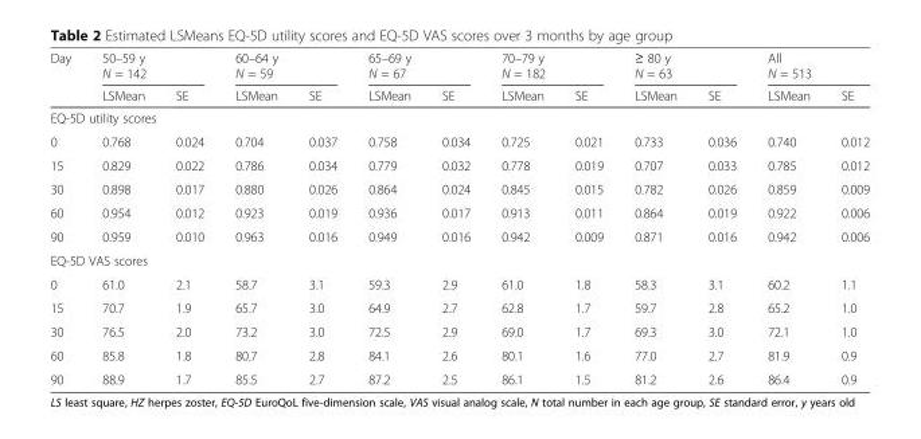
<table><thead><tr><td rowspan="2">Day</td><td colspan="2">50–59 y N = 142</td><td colspan="2">60–64 y N = 59</td><td colspan="2">65–69 y N = 67</td><td colspan="2">70–79 y N = 182</td><td colspan="2">≥ 80 y N = 63</td><td colspan="2">All N = 513</td></tr><tr><td>LSMean</td><td>SE</td><td>LSMean</td><td>SE</td><td>LSMean</td><td>SE</td><td>LSMean</td><td>SE</td><td>LSMean</td><td>SE</td><td>LSMean</td><td>SE</td></tr></thead><tbody><tr><td colspan="13">EQ-5D utility scores</td></tr><tr><td>0</td><td>0.768</td><td>0.024</td><td>0.704</td><td>0.037</td><td>0.758</td><td>0.034</td><td>0.725</td><td>0.021</td><td>0.733</td><td>0.036</td><td>0.740</td><td>0.012</td></tr><tr><td>15</td><td>0.829</td><td>0.022</td><td>0.786</td><td>0.034</td><td>0.779</td><td>0.032</td><td>0.778</td><td>0.019</td><td>0.707</td><td>0.033</td><td>0.785</td><td>0.012</td></tr><tr><td>30</td><td>0.898</td><td>0.017</td><td>0.880</td><td>0.026</td><td>0.864</td><td>0.024</td><td>0.845</td><td>0.015</td><td>0.782</td><td>0.026</td><td>0.859</td><td>0.009</td></tr><tr><td>60</td><td>0.954</td><td>0.012</td><td>0.923</td><td>0.019</td><td>0.936</td><td>0.017</td><td>0.913</td><td>0.011</td><td>0.864</td><td>0.019</td><td>0.922</td><td>0.006</td></tr><tr><td>90</td><td>0.959</td><td>0.010</td><td>0.963</td><td>0.016</td><td>0.949</td><td>0.016</td><td>0.942</td><td>0.009</td><td>0.871</td><td>0.016</td><td>0.942</td><td>0.006</td></tr><tr><td colspan="13">EQ-5D VAS scores</td></tr><tr><td>0</td><td>61.0</td><td>2.1</td><td>58.7</td><td>3.1</td><td>59.3</td><td>2.9</td><td>61.0</td><td>1.8</td><td>58.3</td><td>3.1</td><td>60.2</td><td>1.1</td></tr><tr><td>15</td><td>70.7</td><td>1.9</td><td>65.7</td><td>3.0</td><td>64.9</td><td>2.7</td><td>62.8</td><td>1.7</td><td>59.7</td><td>2.8</td><td>65.2</td><td>1.0</td></tr><tr><td>30</td><td>76.5</td><td>2.0</td><td>73.2</td><td>3.0</td><td>72.5</td><td>2.9</td><td>69.0</td><td>1.7</td><td>69.3</td><td>3.0</td><td>72.1</td><td>1.0</td></tr><tr><td>60</td><td>85.8</td><td>1.8</td><td>80.7</td><td>2.8</td><td>84.1</td><td>2.6</td><td>80.1</td><td>1.6</td><td>77.0</td><td>2.7</td><td>81.9</td><td>0.9</td></tr><tr><td>90</td><td>88.9</td><td>1.7</td><td>85.5</td><td>2.7</td><td>87.2</td><td>2.5</td><td>86.1</td><td>1.5</td><td>81.2</td><td>2.6</td><td>86.4</td><td>0.9</td></tr></tbody></table>